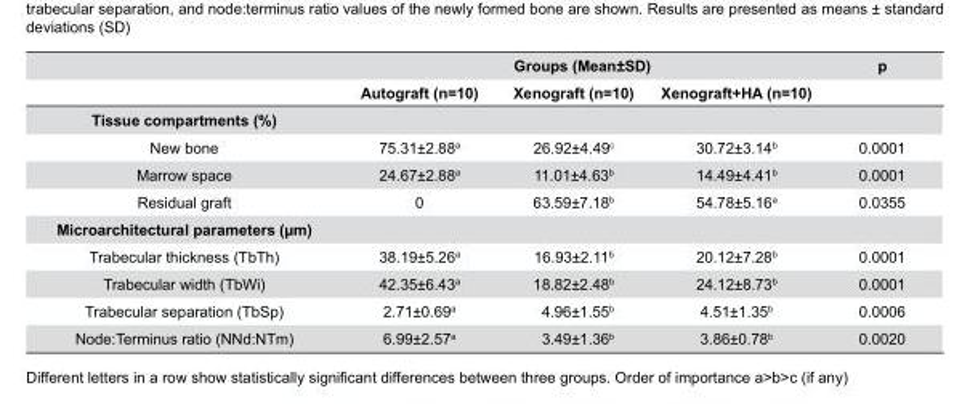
<table><thead><tr><td rowspan="2"></td><td colspan="3">Groups (Mean±SD)</td><td rowspan="2">p</td></tr><tr><td>Autograft (n=10)</td><td>Xenograft (n=10)</td><td>Xenograft+HA (n=10)</td></tr></thead><tbody><tr><td colspan="5">Tissue compartments (%)</td></tr><tr><td>New bone</td><td>75.31±2.88a</td><td>26.92±4.49<sup>c</sup></td><td>30.72±3.14<sup>b</sup></td><td>0.0001</td></tr><tr><td>Marrow space</td><td>24.67±2.88a</td><td>11.01±4.63<sup>b</sup></td><td>14.49±4.41<sup>b</sup></td><td>0.0001</td></tr><tr><td>Residual graft</td><td>0</td><td>63.59±7.18<sup>b</sup></td><td>54.78±5.16a</td><td>0.0355</td></tr><tr><td colspan="5">Microarchitectural parameters (µm)</td></tr><tr><td>Trabecular thickness (TbTh)</td><td>38.19±5.26a</td><td>16.93±2.11<sup>b</sup></td><td>20.12±7.28<sup>b</sup></td><td>0.0001</td></tr><tr><td>Trabecular width (TbWi)</td><td>42.35±6.43a</td><td>18.82±2.48<sup>b</sup></td><td>24.12±8.73<sup>b</sup></td><td>0.0001</td></tr><tr><td>Trabecular separation (TbSp)</td><td>2.71±0.69a</td><td>4.96±1.55<sup>b</sup></td><td>4.51±1.35<sup>b</sup></td><td>0.0006</td></tr><tr><td>Node:Terminus ratio (NNd:NTm)</td><td>6.99±2.57a</td><td>3.49±1.36<sup>b</sup></td><td>3.86±0.78<sup>b</sup></td><td>0.0020</td></tr></tbody></table>